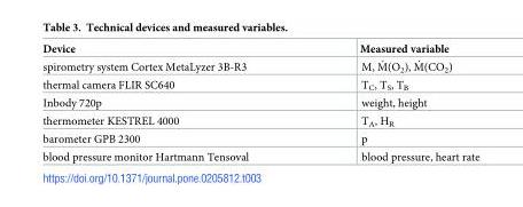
<table><thead><tr><td>Device</td><td>Measured variable</td></tr></thead><tbody><tr><td>spirometry system Cortex MetaLyzer 3B-R3</td><td>M, Ṁ (O2), Ṁ (CO2)</td></tr><tr><td>thermal camera FLIR SC640</td><td>T<sub>C</sub>, T<sub>S</sub>, T<sub>B</sub></td></tr><tr><td>Inbody 720p</td><td>weight, height</td></tr><tr><td>thermometer KESTREL 4000</td><td>T<sub>A</sub>, H<sub>R</sub></td></tr><tr><td>barometer GPB 2300</td><td>p</td></tr><tr><td>blood pressure monitor Hartmann Tensoval</td><td>blood pressure, heart rate</td></tr></tbody></table>